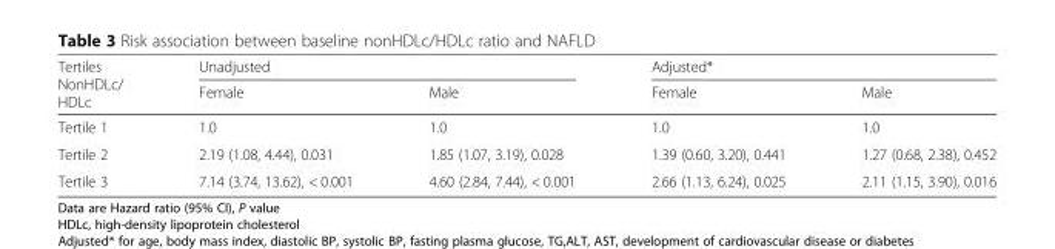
<table><thead><tr><td rowspan="2">Tertiles NonHDLc/ HDLc</td><td colspan="2">Unadjusted</td><td colspan="2">Adjusted*</td></tr><tr><td>Female</td><td>Male</td><td>Female</td><td>Male</td></tr></thead><tbody><tr><td>Tertile 1</td><td>1.0</td><td>1.0</td><td>1.0</td><td>1.0</td></tr><tr><td>Tertile 2</td><td>2.19 (1.08, 4.44), 0.031</td><td>1.85 (1.07, 3.19), 0.028</td><td>1.39 (0.60, 3.20), 0.441</td><td>1.27 (0.68, 2.38), 0.452</td></tr><tr><td>Tertile 3</td><td>7.14 (3.74, 13.62), &lt; 0.001</td><td>4.60 (2.84, 7.44), &lt; 0.001</td><td>2.66 (1.13, 6.24), 0.025</td><td>2.11 (1.15, 3.90), 0.016</td></tr></tbody></table>